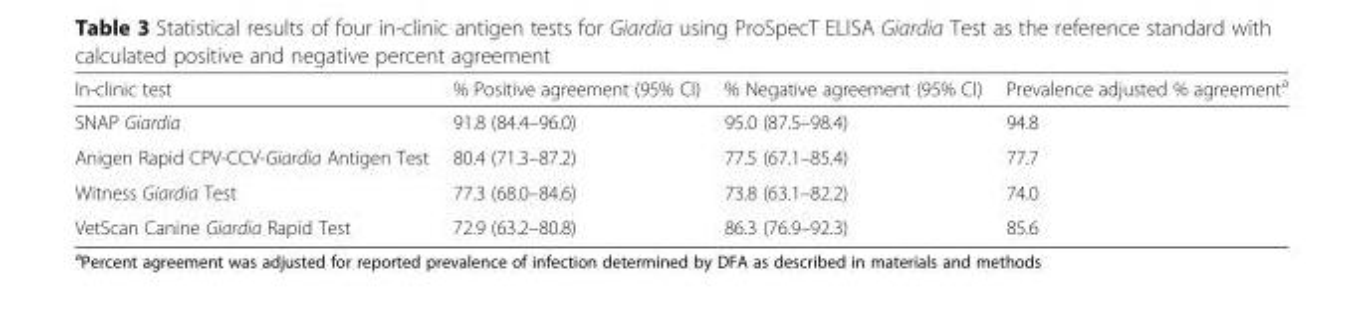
<table><thead><tr><td>In-clinic test</td><td>% Positive agreement (95% CI)</td><td>% Negative agreement (95% CI)</td><td>Prevalence adjusted % agreement<sup>a</sup></td></tr></thead><tbody><tr><td>SNAP Giardia</td><td>91.8 (84.4–96.0)</td><td>95.0 (87.5–98.4)</td><td>94.8</td></tr><tr><td>Anigen Rapid CPV-CCV-Giardia Antigen Test</td><td>80.4 (71.3–87.2)</td><td>77.5 (67.1–85.4)</td><td>77.7</td></tr><tr><td>Witness Giardia Test</td><td>77.3 (68.0–84.6)</td><td>73.8 (63.1–82.2)</td><td>74.0</td></tr><tr><td>VetScan Canine Giardia Rapid Test</td><td>72.9 (63.2–80.8)</td><td>86.3 (76.9–92.3)</td><td>85.6</td></tr></tbody></table>